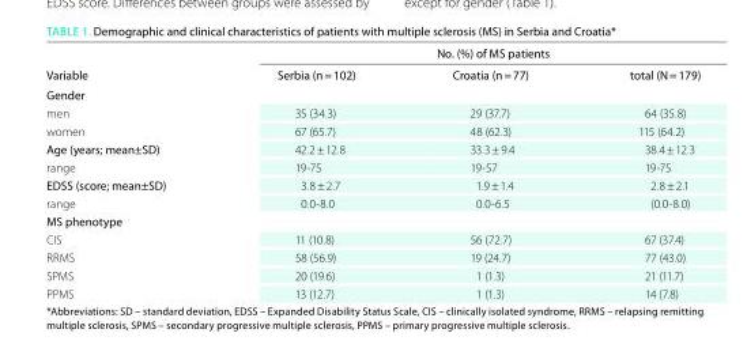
<table><thead><tr><td rowspan="2">Variable</td><td rowspan="2">Serbia (n = 102)</td><td rowspan="2">No. (%) of MS patients Croatia (n = 77)</td><td rowspan="2">total (N = 179)</td></tr><tr></tr></thead><tbody><tr><td colspan="4">Gender</td></tr><tr><td>men</td><td>35 (34.3)</td><td>29 (37.7)</td><td>64 (35.8)</td></tr><tr><td>women</td><td>67 (65.7)</td><td>48 (62.3)</td><td>115 (64.2)</td></tr><tr><td>Age (years; mean±SD)</td><td>42.2 ± 12.8</td><td>33.3 ± 9.4</td><td>38.4 ± 12.3</td></tr><tr><td>range</td><td>19-75</td><td>19-57</td><td>19-75</td></tr><tr><td>EDSS (score; mean±SD)</td><td>3.8 ± 2.7</td><td>1.9 ± 1.4</td><td>2.8 ± 2.1</td></tr><tr><td>range</td><td>0.0-8.0</td><td>0.0-6.5</td><td>(0.0-8.0)</td></tr><tr><td colspan="4">MS phenotype</td></tr><tr><td>CIS</td><td>11 (10.8)</td><td>56 (72.7)</td><td>67 (37.4)</td></tr><tr><td>RRMS</td><td>58 (56.9)</td><td>19 (24.7)</td><td>77 (43.0)</td></tr><tr><td>SPMS</td><td>20 (19.6)</td><td>1 (1.3)</td><td>21 (11.7)</td></tr><tr><td>PPMS</td><td>13 (12.7)</td><td>1 (1.3)</td><td>14 (7.8)</td></tr></tbody></table>